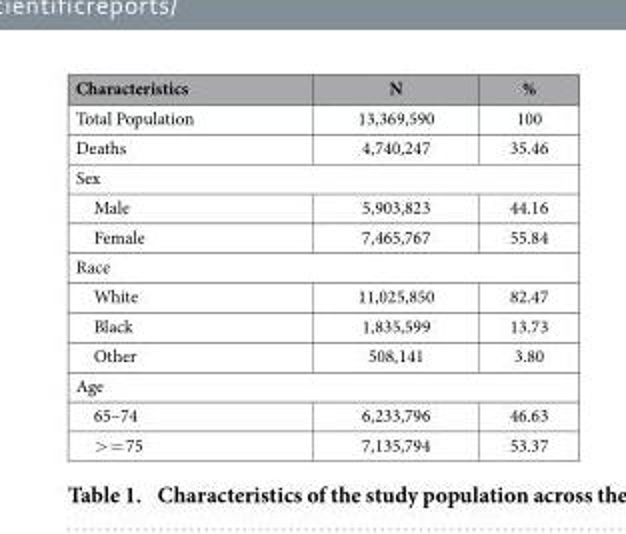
<table><thead><tr><td>Characteristics</td><td>N</td><td>%</td></tr></thead><tbody><tr><td>Total Population</td><td>13,369,590</td><td>100</td></tr><tr><td>Deaths</td><td>4,740,247</td><td>35.46</td></tr><tr><td colspan="3">Sex</td></tr><tr><td>Male</td><td>5,903,823</td><td>44.16</td></tr><tr><td>Female</td><td>7,465,767</td><td>55.84</td></tr><tr><td colspan="3">Race</td></tr><tr><td>White</td><td>11,025,850</td><td>82.47</td></tr><tr><td>Black</td><td>1,835,599</td><td>13.73</td></tr><tr><td>Other</td><td>508,141</td><td>3.80</td></tr><tr><td colspan="3">Age</td></tr><tr><td>65–74</td><td>6,233,796</td><td>46.63</td></tr><tr><td>&gt; = 75</td><td>7,135,794</td><td>53.37</td></tr></tbody></table>